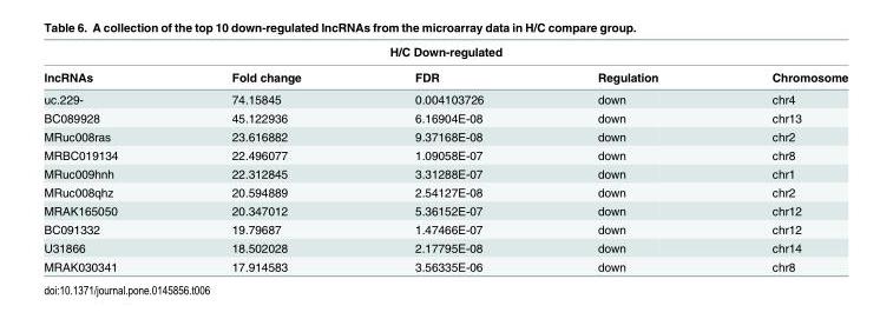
<table><thead><tr><td colspan="5">H/C Down-regulated</td></tr><tr><td>lncRNAs</td><td>Fold change</td><td>FDR</td><td>Regulation</td><td>Chromosome</td></tr></thead><tbody><tr><td>uc.229-</td><td>74.15845</td><td>0.004103726</td><td>down</td><td>chr4</td></tr><tr><td>BC089928</td><td>45.122936</td><td>6.16904E-08</td><td>down</td><td>chr13</td></tr><tr><td>MRuc008ras</td><td>23.616882</td><td>9.37168E-08</td><td>down</td><td>chr2</td></tr><tr><td>MRBC019134</td><td>22.496077</td><td>1.09058E-07</td><td>down</td><td>chr8</td></tr><tr><td>MRuc009hnh</td><td>22.312845</td><td>3.31288E-07</td><td>down</td><td>chr1</td></tr><tr><td>MRuc008qhz</td><td>20.594889</td><td>2.54127E-08</td><td>down</td><td>chr2</td></tr><tr><td>MRAK165050</td><td>20.347012</td><td>5.36152E-07</td><td>down</td><td>chr12</td></tr><tr><td>BC091332</td><td>19.79687</td><td>1.47466E-07</td><td>down</td><td>chr12</td></tr><tr><td>U31866</td><td>18.502028</td><td>2.17795E-08</td><td>down</td><td>chr14</td></tr><tr><td>MRAK030341</td><td>17.914583</td><td>3.56335E-06</td><td>down</td><td>chr8</td></tr></tbody></table>